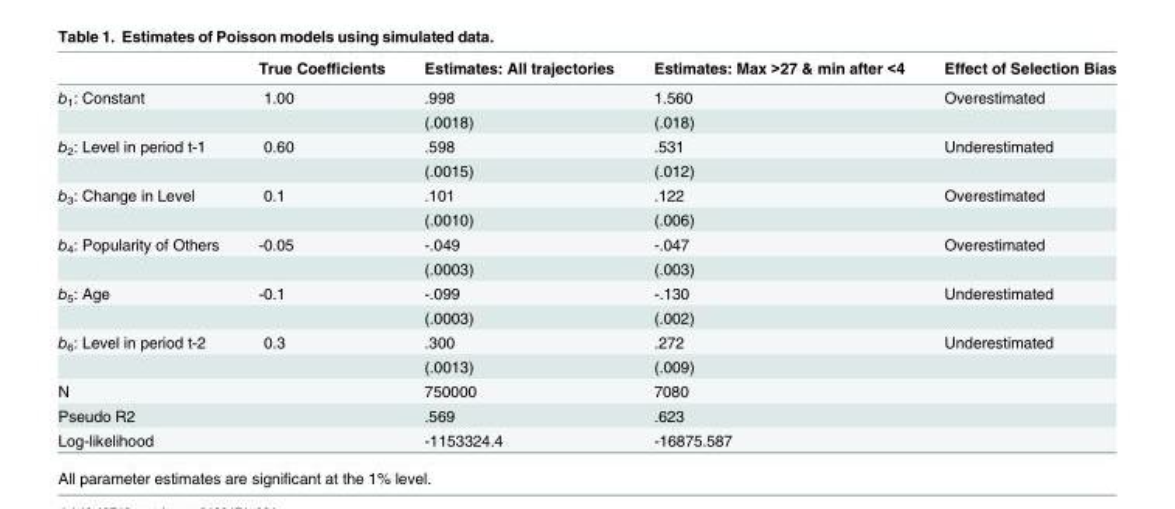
<table><thead><tr><td></td><td>True Coefficients</td><td>Estimates: All trajectories</td><td>Estimates: Max &gt;27 &amp; min after &lt;4</td><td>Effect of Selection Bias</td></tr></thead><tbody><tr><td rowspan="2">b<sub>1</sub>: Constant</td><td>1.00</td><td>.998</td><td>1.560</td><td>Overestimated</td></tr><tr><td></td><td>(.0018)</td><td>(.018)</td><td></td></tr><tr><td rowspan="2">b<sub>2</sub>: Level in period t-1</td><td>0.60</td><td>.598</td><td>.531</td><td>Underestimated</td></tr><tr><td></td><td>(.0015)</td><td>(.012)</td><td></td></tr><tr><td rowspan="2">b<sub>3</sub>: Change in Level</td><td>0.1</td><td>.101</td><td>.122</td><td>Overestimated</td></tr><tr><td></td><td>(.0010)</td><td>(.006)</td><td></td></tr><tr><td rowspan="2">b<sub>4</sub>: Popularity of Others</td><td>-0.05</td><td>-.049</td><td>-.047</td><td>Overestimated</td></tr><tr><td></td><td>(.0003)</td><td>(.003)</td><td></td></tr><tr><td rowspan="2">b<sub>5</sub>: Age</td><td>-0.1</td><td>-.099</td><td>-.130</td><td>Underestimated</td></tr><tr><td></td><td>(.0003)</td><td>(.002)</td><td></td></tr><tr><td rowspan="2">b<sub>6</sub>: Level in period t-2</td><td>0.3</td><td>.300</td><td>.272</td><td>Underestimated</td></tr><tr><td></td><td>(.0013)</td><td>(.009)</td><td></td></tr><tr><td>N</td><td></td><td>750000</td><td>7080</td><td></td></tr><tr><td>Pseudo R2</td><td></td><td>.569</td><td>.623</td><td></td></tr><tr><td>Log-likelihood</td><td></td><td>-1153324.4</td><td>-16875.587</td><td></td></tr></tbody></table>